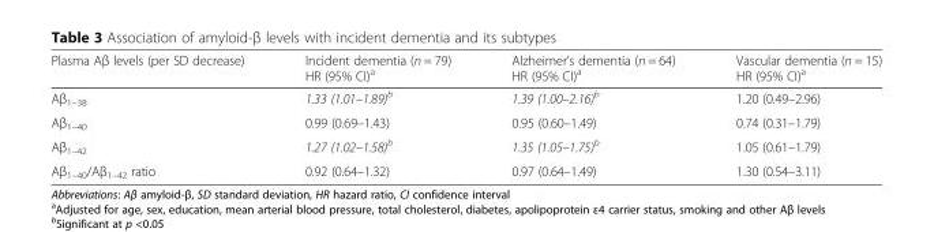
<table><thead><tr><td>Plasma Aβ levels (per SD decrease)</td><td>Incident dementia (n = 79) HR (95% CI)<sup>a</sup></td><td>Alzheimer’s dementia (n = 64) HR (95% CI)<sup>a</sup></td><td>Vascular dementia (n = 15) HR (95% CI)<sup>a</sup></td></tr></thead><tbody><tr><td>Aβ<sub>1–38</sub></td><td>1.33 (1.01–1.89)<sup>b</sup></td><td>1.39 (1.00–2.16)<sup>b</sup></td><td>1.20 (0.49–2.96)</td></tr><tr><td>Aβ<sub>1–40</sub></td><td>0.99 (0.69–1.43)</td><td>0.95 (0.60–1.49)</td><td>0.74 (0.31–1.79)</td></tr><tr><td>Aβ<sub>1–42</sub></td><td>1.27 (1.02–1.58)<sup>b</sup></td><td>1.35 (1.05–1.75)<sup>b</sup></td><td>1.05 (0.61–1.79)</td></tr><tr><td>Aβ<sub>1–40</sub>/Aβ<sub>1–42</sub> ratio</td><td>0.92 (0.64–1.32)</td><td>0.97 (0.64–1.49)</td><td>1.30 (0.54–3.11)</td></tr></tbody></table>